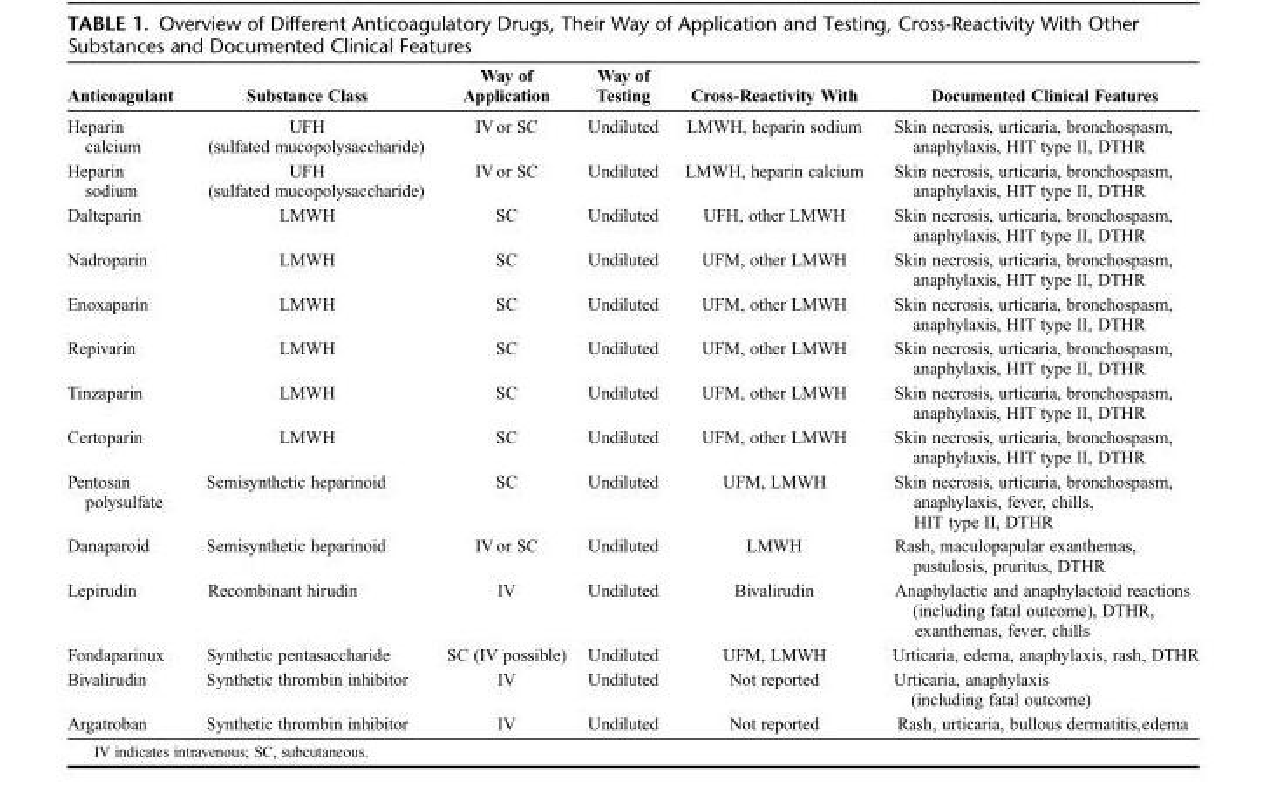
<table><thead><tr><td>Anticoagulant</td><td>Substance Class</td><td>Way of Application</td><td>Way of Testing</td><td>Cross-Reactivity With</td><td>Documented Clinical Features</td></tr></thead><tbody><tr><td>Heparin calcium</td><td>UFH (sulfated mucopolysaccharide)</td><td>IV or SC</td><td>Undiluted</td><td>LMWH, heparin sodium</td><td>Skin necrosis, urticaria, bronchospasm, anaphylaxis, HIT type II, DTHR</td></tr><tr><td>Heparin sodium</td><td>UFH (sulfated mucopolysaccharide)</td><td>IV or SC</td><td>Undiluted</td><td>LMWH, heparin calcium</td><td>Skin necrosis, urticaria, bronchospasm, anaphylaxis, HIT type II, DTHR</td></tr><tr><td>Dalteparin</td><td>LMWH</td><td>SC</td><td>Undiluted</td><td>UFH, other LMWH</td><td>Skin necrosis, urticaria, bronchospasm, anaphylaxis, HIT type II, DTHR</td></tr><tr><td>Nadroparin</td><td>LMWH</td><td>SC</td><td>Undiluted</td><td>UFM, other LMWH</td><td>Skin necrosis, urticaria, bronchospasm, anaphylaxis, HIT type II, DTHR</td></tr><tr><td>Enoxaparin</td><td>LMWH</td><td>SC</td><td>Undiluted</td><td>UFM, other LMWH</td><td>Skin necrosis, urticaria, bronchospasm, anaphylaxis, HIT type II, DTHR</td></tr><tr><td>Repivarin</td><td>LMWH</td><td>SC</td><td>Undiluted</td><td>UFM, other LMWH</td><td>Skin necrosis, urticaria, bronchospasm, anaphylaxis, HIT type II, DTHR</td></tr><tr><td>Tinzaparin</td><td>LMWH</td><td>SC</td><td>Undiluted</td><td>UFM, other LMWH</td><td>Skin necrosis, urticaria, bronchospasm, anaphylaxis, HIT type II, DTHR</td></tr><tr><td>Certoparin</td><td>LMWH</td><td>SC</td><td>Undiluted</td><td>UFM, other LMWH</td><td>Skin necrosis, urticaria, bronchospasm, anaphylaxis, HIT type II, DTHR</td></tr><tr><td>Pentosan polysulfate</td><td>Semisynthetic heparinoid</td><td>SC</td><td>Undiluted</td><td>UFM, LMWH</td><td>Skin necrosis, urticaria, bronchospasm, anaphylaxis, fever, chills, HIT type II, DTHR</td></tr><tr><td>Danaparoid</td><td>Semisynthetic heparinoid</td><td>IV or SC</td><td>Undiluted</td><td>LMWH</td><td>Rash, maculopapular exanthemas, pustulosis, pruritus, DTHR</td></tr><tr><td>Lepirudin</td><td>Recombinant hirudin</td><td>IV</td><td>Undiluted</td><td>Bivalirudin</td><td>Anaphylactic and anaphylactoid reactions (including fatal outcome), DTHR, exanthemas, fever, chills</td></tr><tr><td>Fondaparinux</td><td>Synthetic pentasaccharide</td><td>SC (IV possible)</td><td>Undiluted</td><td>UFM, LMWH</td><td>Urticaria, edema, anaphylaxis, rash, DTHR</td></tr><tr><td>Bivalirudin</td><td>Synthetic thrombin inhibitor</td><td>IV</td><td>Undiluted</td><td>Not reported</td><td>Urticaria, anaphylaxis (including fatal outcome)</td></tr><tr><td>Argatroban</td><td>Synthetic thrombin inhibitor</td><td>IV</td><td>Undiluted</td><td>Not reported</td><td>Rash, urticaria, bullous dermatitis,edema</td></tr></tbody></table>